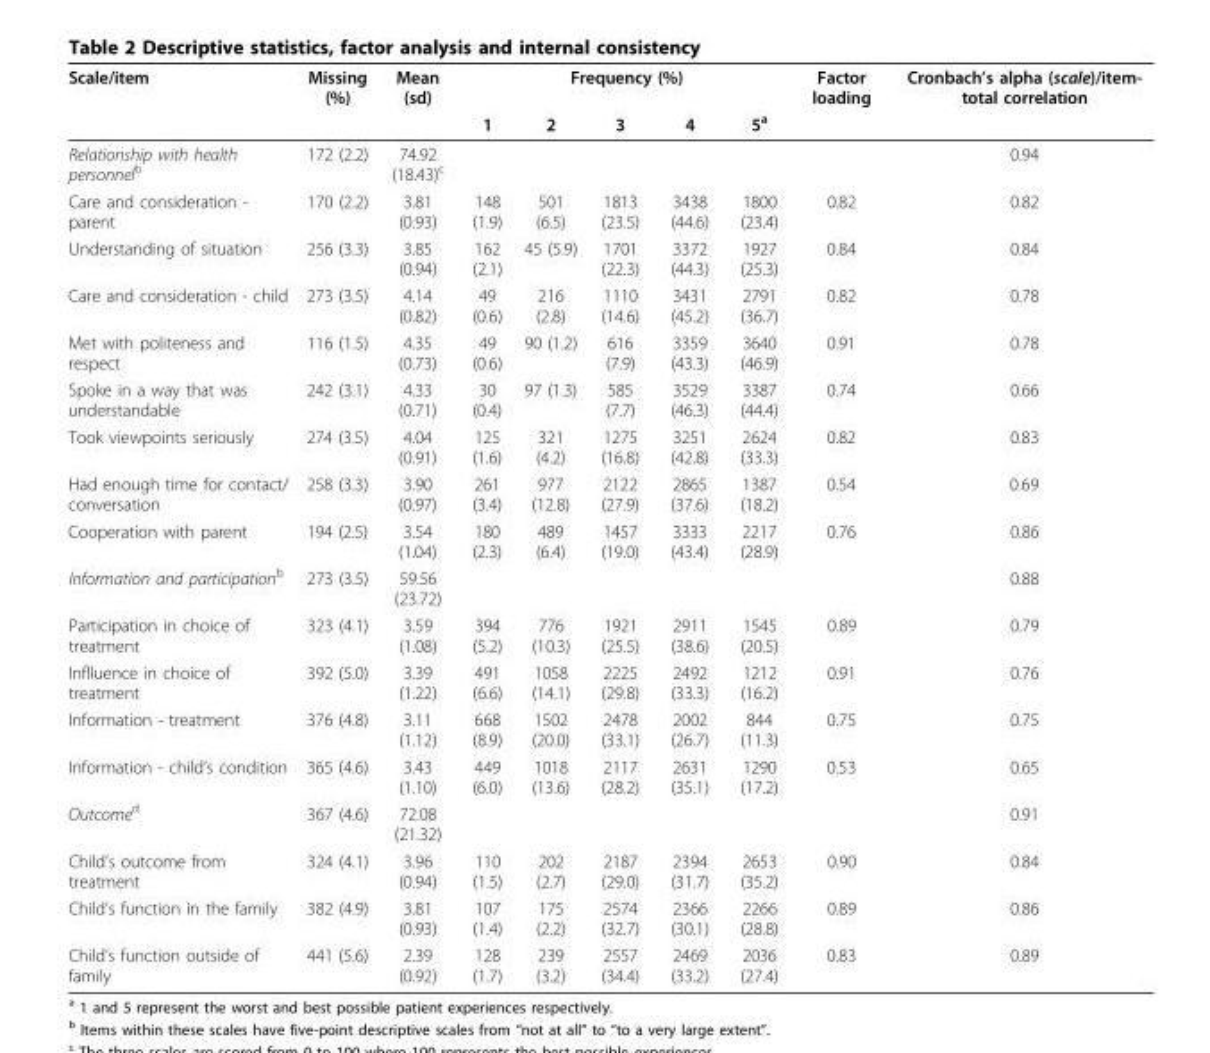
<table><thead><tr><td rowspan="2">Scale/item</td><td rowspan="2">Missing (%)</td><td rowspan="2">Mean (sd)</td><td colspan="5">Frequency (%)</td><td rowspan="2">Factor loading</td><td rowspan="2">Cronbach’s alpha (scale)/item- total correlation</td></tr><tr><td>1</td><td>2</td><td>3</td><td>4</td><td>5<sup>a</sup></td></tr></thead><tbody><tr><td>Relationship with health personnel<sup>b</sup></td><td>172 (2.2)</td><td>74.92 (18.43)<sup>c</sup></td><td></td><td></td><td></td><td></td><td></td><td></td><td>0.94</td></tr><tr><td>Care and consideration - parent</td><td>170 (2.2)</td><td>3.81 (0.93)</td><td>148 (1.9)</td><td>501 (6.5)</td><td>1813 (23.5)</td><td>3438 (44.6)</td><td>1800 (23.4)</td><td>0.82</td><td>0.82</td></tr><tr><td>Understanding of situation</td><td>256 (3.3)</td><td>3.85 (0.94)</td><td>162 (2.1)</td><td>45 (5.9)</td><td>1701 (22.3)</td><td>3372 (44.3)</td><td>1927 (25.3)</td><td>0.84</td><td>0.84</td></tr><tr><td>Care and consideration - child</td><td>273 (3.5)</td><td>4.14 (0.82)</td><td>49 (0.6)</td><td>216 (2.8)</td><td>1110 (14.6)</td><td>3431 (45.2)</td><td>2791 (36.7)</td><td>0.82</td><td>0.78</td></tr><tr><td>Met with politeness and respect</td><td>116 (1.5)</td><td>4.35 (0.73)</td><td>49 (0.6)</td><td>90 (1.2)</td><td>616 (7.9)</td><td>3359 (43.3)</td><td>3640 (46.9)</td><td>0.91</td><td>0.78</td></tr><tr><td>Spoke in a way that was understandable</td><td>242 (3.1)</td><td>4.33 (0.71)</td><td>30 (0.4)</td><td>97 (1.3)</td><td>585 (7.7)</td><td>3529 (46.3)</td><td>3387 (44.4)</td><td>0.74</td><td>0.66</td></tr><tr><td>Took viewpoints seriously</td><td>274 (3.5)</td><td>4.04 (0.91)</td><td>125 (1.6)</td><td>321 (4.2)</td><td>1275 (16.8)</td><td>3251 (42.8)</td><td>2624 (33.3)</td><td>0.82</td><td>0.83</td></tr><tr><td>Had enough time for contact/ conversation</td><td>258 (3.3)</td><td>3.90 (0.97)</td><td>261 (3.4)</td><td>977 (12.8)</td><td>2122 (27.9)</td><td>2865 (37.6)</td><td>1387 (18.2)</td><td>0.54</td><td>0.69</td></tr><tr><td>Cooperation with parent</td><td>194 (2.5)</td><td>3.54 (1.04)</td><td>180 (2.3)</td><td>489 (6.4)</td><td>1457 (19.0)</td><td>3333 (43.4)</td><td>2217 (28.9)</td><td>0.76</td><td>0.86</td></tr><tr><td>Information and participation<sup>b</sup></td><td>273 (3.5)</td><td>59.56 (23.72)</td><td></td><td></td><td></td><td></td><td></td><td></td><td>0.88</td></tr><tr><td>Participation in choice of treatment</td><td>323 (4.1)</td><td>3.59 (1.08)</td><td>394 (5.2)</td><td>776 (10.3)</td><td>1921 (25.5)</td><td>2911 (38.6)</td><td>1545 (20.5)</td><td>0.89</td><td>0.79</td></tr><tr><td>Inflluence in choice of treatment</td><td>392 (5.0)</td><td>3.39 (1.22)</td><td>491 (6.6)</td><td>1058 (14.1)</td><td>2225 (29.8)</td><td>2492 (33.3)</td><td>1212 (16.2)</td><td>0.91</td><td>0.76</td></tr><tr><td>Information - treatment</td><td>376 (4.8)</td><td>3.11 (1.12)</td><td>668 (8.9)</td><td>1502 (20.0)</td><td>2478 (33.1)</td><td>2002 (26.7)</td><td>844 (11.3)</td><td>0.75</td><td>0.75</td></tr><tr><td>Information - child’s condition</td><td>365 (4.6)</td><td>3.43 (1.10)</td><td>449 (6.0)</td><td>1018 (13.6)</td><td>2117 (28.2)</td><td>2631 (35.1)</td><td>1290 (17.2)</td><td>0.53</td><td>0.65</td></tr><tr><td>Outcome<sup>d</sup></td><td>367 (4.6)</td><td>72.08 (21.32)</td><td></td><td></td><td></td><td></td><td></td><td></td><td>0.91</td></tr><tr><td>Child’s outcome from treatment</td><td>324 (4.1)</td><td>3.96 (0.94)</td><td>110 (1.5)</td><td>202 (2.7)</td><td>2187 (29.0)</td><td>2394 (31.7)</td><td>2653 (35.2)</td><td>0.90</td><td>0.84</td></tr><tr><td>Child’s function in the family</td><td>382 (4.9)</td><td>3.81 (0.93)</td><td>107 (1.4)</td><td>175 (2.2)</td><td>2574 (32.7)</td><td>2366 (30.1)</td><td>2266 (28.8)</td><td>0.89</td><td>0.86</td></tr><tr><td>Child’s function outside of family</td><td>441 (5.6)</td><td>2.39 (0.92)</td><td>128 (1.7)</td><td>239 (3.2)</td><td>2557 (34.4)</td><td>2469 (33.2)</td><td>2036 (27.4)</td><td>0.83</td><td>0.89</td></tr></tbody></table>